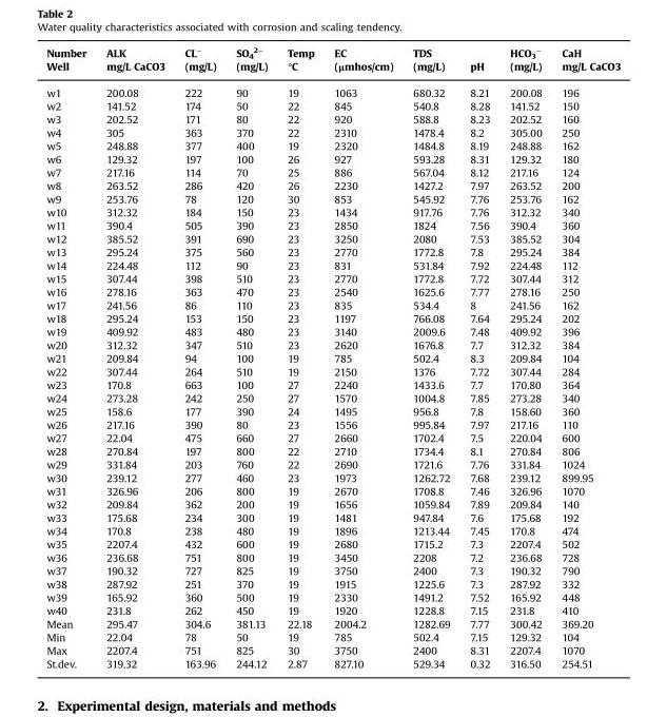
<table><thead><tr><td rowspan="2">Number Well</td><td rowspan="2">ALK mg/L CaCO3</td><td rowspan="2">CL<sup>−</sup> (mg/L)</td><td rowspan="2">SO<sub>4</sub> <sup>2−</sup> (mg/L)</td><td rowspan="2">Temp °C</td><td rowspan="2">EC (μmhos/cm)</td><td rowspan="2">TDS (mg/L)</td><td rowspan="2">pH</td><td rowspan="2">HCO<sub>3</sub> <sup>−</sup> (mg/L)</td><td rowspan="2">CaH mg/L CaCO3</td></tr><tr></tr></thead><tbody><tr><td>w1</td><td>200.08</td><td>222</td><td>90</td><td>19</td><td>1063</td><td>680.32</td><td>8.21</td><td>200.08</td><td>196</td></tr><tr><td>w2</td><td>141.52</td><td>174</td><td>50</td><td>22</td><td>845</td><td>540.8</td><td>8.28</td><td>141.52</td><td>150</td></tr><tr><td>w3</td><td>202.52</td><td>171</td><td>80</td><td>22</td><td>920</td><td>588.8</td><td>8.23</td><td>202.52</td><td>160</td></tr><tr><td>w4</td><td>305</td><td>363</td><td>370</td><td>22</td><td>2310</td><td>1478.4</td><td>8.2</td><td>305.00</td><td>250</td></tr><tr><td>w5</td><td>248.88</td><td>377</td><td>400</td><td>19</td><td>2320</td><td>1484.8</td><td>8.19</td><td>248.88</td><td>162</td></tr><tr><td>w6</td><td>129.32</td><td>197</td><td>100</td><td>26</td><td>927</td><td>593.28</td><td>8.31</td><td>129.32</td><td>180</td></tr><tr><td>w7</td><td>217.16</td><td>114</td><td>70</td><td>25</td><td>886</td><td>567.04</td><td>8.12</td><td>217.16</td><td>124</td></tr><tr><td>w8</td><td>263.52</td><td>286</td><td>420</td><td>26</td><td>2230</td><td>1427.2</td><td>7.97</td><td>263.52</td><td>200</td></tr><tr><td>w9</td><td>253.76</td><td>78</td><td>120</td><td>30</td><td>853</td><td>545.92</td><td>7.76</td><td>253.76</td><td>162</td></tr><tr><td>w10</td><td>312.32</td><td>184</td><td>150</td><td>23</td><td>1434</td><td>917.76</td><td>7.76</td><td>312.32</td><td>340</td></tr><tr><td>w11</td><td>390.4</td><td>505</td><td>390</td><td>23</td><td>2850</td><td>1824</td><td>7.56</td><td>390.4</td><td>360</td></tr><tr><td>w12</td><td>385.52</td><td>391</td><td>690</td><td>23</td><td>3250</td><td>2080</td><td>7.53</td><td>385.52</td><td>304</td></tr><tr><td>w13</td><td>295.24</td><td>375</td><td>560</td><td>23</td><td>2770</td><td>1772.8</td><td>7.8</td><td>295.24</td><td>384</td></tr><tr><td>w14</td><td>224.48</td><td>112</td><td>90</td><td>23</td><td>831</td><td>531.84</td><td>7.92</td><td>224.48</td><td>112</td></tr><tr><td>w15</td><td>307.44</td><td>398</td><td>510</td><td>23</td><td>2770</td><td>1772.8</td><td>7.72</td><td>307.44</td><td>312</td></tr><tr><td>w16</td><td>278.16</td><td>363</td><td>470</td><td>23</td><td>2540</td><td>1625.6</td><td>7.77</td><td>278.16</td><td>250</td></tr><tr><td>w17</td><td>241.56</td><td>86</td><td>110</td><td>23</td><td>835</td><td>534.4</td><td>8</td><td>241.56</td><td>162</td></tr><tr><td>w18</td><td>295.24</td><td>153</td><td>150</td><td>23</td><td>1197</td><td>766.08</td><td>7.64</td><td>295.24</td><td>202</td></tr><tr><td>w19</td><td>409.92</td><td>483</td><td>480</td><td>23</td><td>3140</td><td>2009.6</td><td>7.48</td><td>409.92</td><td>396</td></tr><tr><td>w20</td><td>312.32</td><td>347</td><td>510</td><td>23</td><td>2620</td><td>1676.8</td><td>7.7</td><td>312.32</td><td>384</td></tr><tr><td>w21</td><td>209.84</td><td>94</td><td>100</td><td>19</td><td>785</td><td>502.4</td><td>8.3</td><td>209.84</td><td>104</td></tr><tr><td>w22</td><td>307.44</td><td>264</td><td>510</td><td>19</td><td>2150</td><td>1376</td><td>7.72</td><td>307.44</td><td>284</td></tr><tr><td>w23</td><td>170.8</td><td>663</td><td>100</td><td>27</td><td>2240</td><td>1433.6</td><td>7.7</td><td>170.80</td><td>364</td></tr><tr><td>w24</td><td>273.28</td><td>242</td><td>250</td><td>27</td><td>1570</td><td>1004.8</td><td>7.85</td><td>273.28</td><td>340</td></tr><tr><td>w25</td><td>158.6</td><td>177</td><td>390</td><td>24</td><td>1495</td><td>956.8</td><td>7.8</td><td>158.60</td><td>360</td></tr><tr><td>w26</td><td>217.16</td><td>390</td><td>80</td><td>23</td><td>1556</td><td>995.84</td><td>7.97</td><td>217.16</td><td>110</td></tr><tr><td>w27</td><td>22.04</td><td>475</td><td>660</td><td>27</td><td>2660</td><td>1702.4</td><td>7.5</td><td>220.04</td><td>600</td></tr><tr><td>w28</td><td>270.84</td><td>197</td><td>800</td><td>22</td><td>2710</td><td>1734.4</td><td>8.1</td><td>270.84</td><td>806</td></tr><tr><td>w29</td><td>331.84</td><td>203</td><td>760</td><td>22</td><td>2690</td><td>1721.6</td><td>7.76</td><td>331.84</td><td>1024</td></tr><tr><td>w30</td><td>239.12</td><td>277</td><td>460</td><td>23</td><td>1973</td><td>1262.72</td><td>7.68</td><td>239.12</td><td>899.95</td></tr><tr><td>w31</td><td>326.96</td><td>206</td><td>800</td><td>19</td><td>2670</td><td>1708.8</td><td>7.46</td><td>326.96</td><td>1070</td></tr><tr><td>w32</td><td>209.84</td><td>362</td><td>200</td><td>19</td><td>1656</td><td>1059.84</td><td>7.89</td><td>209.84</td><td>140</td></tr><tr><td>w33</td><td>175.68</td><td>234</td><td>300</td><td>19</td><td>1481</td><td>947.84</td><td>7.6</td><td>175.68</td><td>192</td></tr><tr><td>w34</td><td>170.8</td><td>238</td><td>480</td><td>19</td><td>1896</td><td>1213.44</td><td>7.45</td><td>170.8</td><td>474</td></tr><tr><td>w35</td><td>2207.4</td><td>432</td><td>600</td><td>19</td><td>2680</td><td>1715.2</td><td>7.3</td><td>2207.4</td><td>502</td></tr><tr><td>w36</td><td>236.68</td><td>751</td><td>800</td><td>19</td><td>3450</td><td>2208</td><td>7.2</td><td>236.68</td><td>728</td></tr><tr><td>w37</td><td>190.32</td><td>727</td><td>825</td><td>19</td><td>3750</td><td>2400</td><td>7.3</td><td>190.32</td><td>790</td></tr><tr><td>w38</td><td>287.92</td><td>251</td><td>370</td><td>19</td><td>1915</td><td>1225.6</td><td>7.3</td><td>287.92</td><td>332</td></tr><tr><td>w39</td><td>165.92</td><td>360</td><td>500</td><td>19</td><td>2330</td><td>1491.2</td><td>7.52</td><td>165.92</td><td>448</td></tr><tr><td>w40</td><td>231.8</td><td>262</td><td>450</td><td>19</td><td>1920</td><td>1228.8</td><td>7.15</td><td>231.8</td><td>410</td></tr><tr><td>Mean</td><td>295.47</td><td>304.6</td><td>381.13</td><td>22.18</td><td>2004.2</td><td>1282.69</td><td>7.77</td><td>300.42</td><td>369.20</td></tr><tr><td>Min</td><td>22.04</td><td>78</td><td>50</td><td>19</td><td>785</td><td>502.4</td><td>7.15</td><td>129.32</td><td>104</td></tr><tr><td>Max</td><td>2207.4</td><td>751</td><td>825</td><td>30</td><td>3750</td><td>2400</td><td>8.31</td><td>2207.4</td><td>1070</td></tr><tr><td>St.dev.</td><td>319.32</td><td>163.96</td><td>244.12</td><td>2.87</td><td>827.10</td><td>529.34</td><td>0.32</td><td>316.50</td><td>254.51</td></tr></tbody></table>